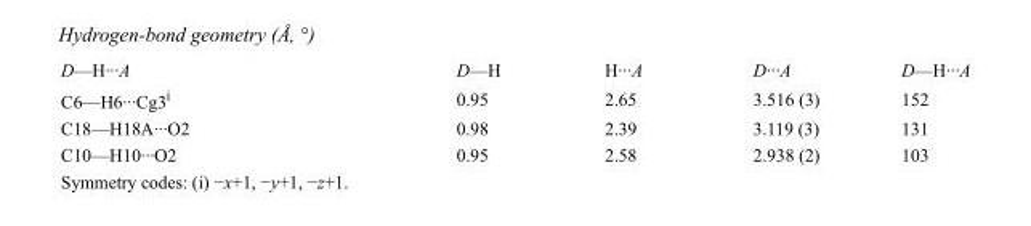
<table><tbody><tr><td>D—H···A</td><td>D—H</td><td>H···A</td><td>D···A</td><td>D—H···A</td></tr><tr><td>C6—H6···Cg3<sup>i</sup></td><td>0.95</td><td>2.65</td><td>3.516 (3)</td><td>152</td></tr><tr><td>C18—H18A···O2</td><td>0.98</td><td>2.39</td><td>3.119 (3)</td><td>131</td></tr><tr><td>C10—H10···O2</td><td>0.95</td><td>2.58</td><td>2.938 (2)</td><td>103</td></tr></tbody></table>